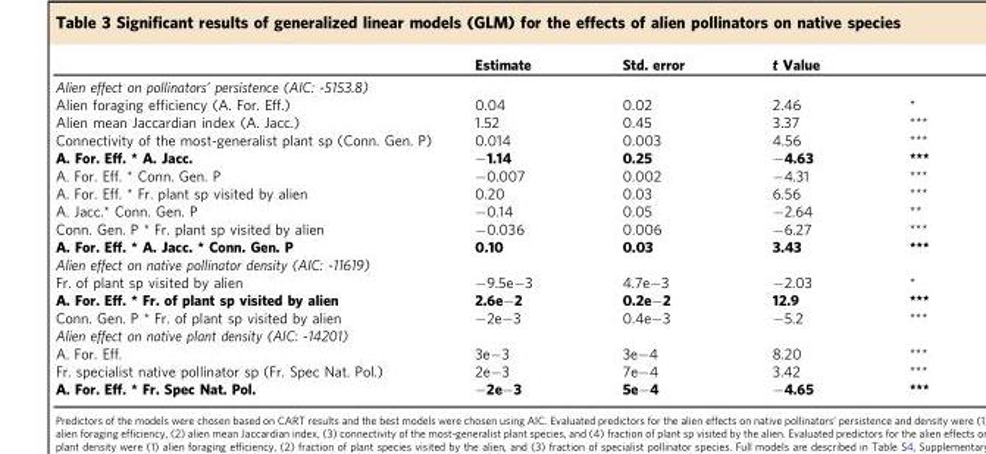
<table><thead><tr><td></td><td>Estimate</td><td>Std. error</td><td>t Value</td><td></td></tr></thead><tbody><tr><td colspan="5">Alien effect on pollinators’ persistence (AIC: -5153.8)</td></tr><tr><td>Alien foraging efficiency (A. For. Eff.)</td><td>0.04</td><td>0.02</td><td>2.46</td><td>*</td></tr><tr><td>Alien mean Jaccardian index (A. Jacc.)</td><td>1.52</td><td>0.45</td><td>3.37</td><td>***</td></tr><tr><td>Connectivity of the most-generalist plant sp (Conn. Gen. P)</td><td>0.014</td><td>0.003</td><td>4.56</td><td>***</td></tr><tr><td>A. For. Eff. * A. Jacc.</td><td>−1.14</td><td>0.25</td><td>−4.63</td><td>***</td></tr><tr><td>A. For. Eff. * Conn. Gen. P</td><td>−0.007</td><td>0.002</td><td>−4.31</td><td>***</td></tr><tr><td>A. For. Eff. * Fr. plant sp visited by alien</td><td>0.20</td><td>0.03</td><td>6.56</td><td>***</td></tr><tr><td>A. Jacc.* Conn. Gen. P</td><td>−0.14</td><td>0.05</td><td>−2.64</td><td>**</td></tr><tr><td>Conn. Gen. P * Fr. plant sp visited by alien</td><td>−0.036</td><td>0.006</td><td>−6.27</td><td>***</td></tr><tr><td>A. For. Eff. * A. Jacc. * Conn. Gen. P</td><td>0.10</td><td>0.03</td><td>3.43</td><td>***</td></tr><tr><td colspan="5">Alien effect on native pollinator density (AIC: -11619)</td></tr><tr><td>Fr. of plant sp visited by alien</td><td>−9.5e−3</td><td>4.7e−3</td><td>−2.03</td><td>*</td></tr><tr><td>A. For. Eff. * Fr. of plant sp visited by alien</td><td>2.6e−2</td><td>0.2e−2</td><td>12.9</td><td>***</td></tr><tr><td>Conn. Gen. P * Fr. of plant sp visited by alien</td><td>−2e−3</td><td>0.4e−3</td><td>−5.2</td><td>***</td></tr><tr><td colspan="5">Alien effect on native plant density (AIC: -14201)</td></tr><tr><td>A. For. Eff.</td><td>3e−3</td><td>3e−4</td><td>8.20</td><td>***</td></tr><tr><td>Fr. specialist native pollinator sp (Fr. Spec Nat. Pol.)</td><td>2e−3</td><td>7e−4</td><td>3.42</td><td>***</td></tr><tr><td>A. For. Eff. * Fr. Spec Nat. Pol.</td><td>−2e−3</td><td>5e−4</td><td>−4.65</td><td>***</td></tr></tbody></table>